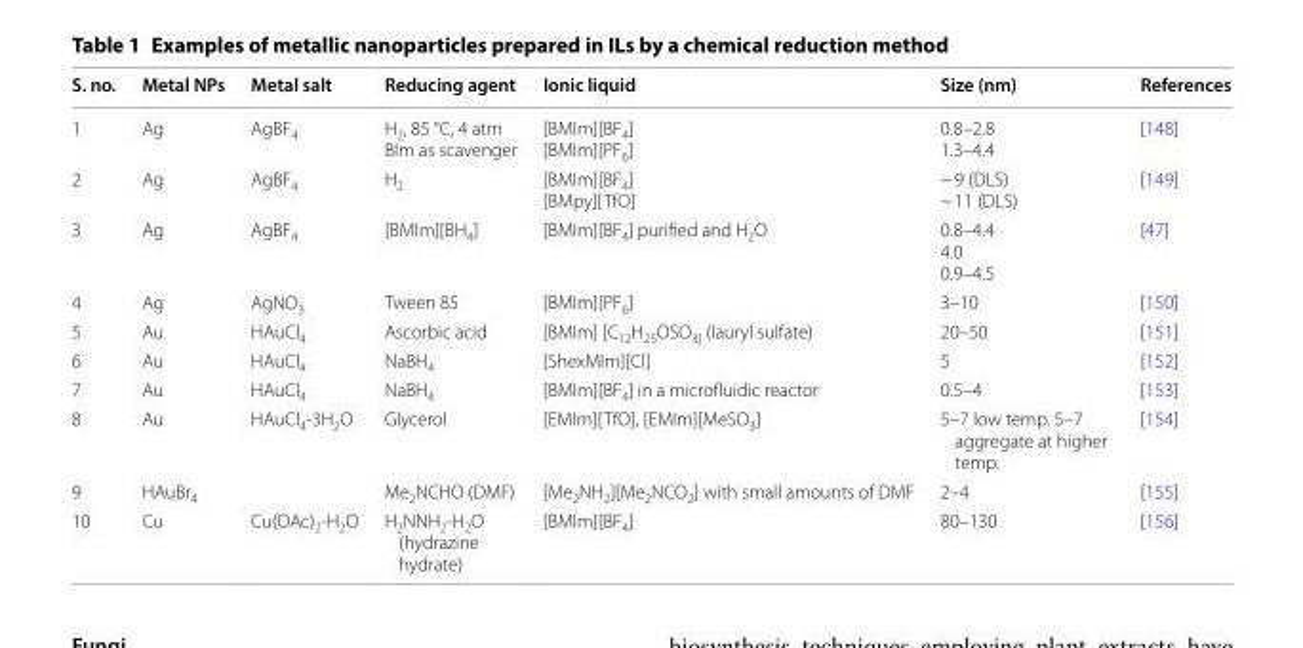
<table><thead><tr><td>S. no.</td><td>Metal NPs</td><td>Metal salt</td><td>Reducing agent</td><td>Ionic liquid</td><td>Size (nm)</td><td>References</td></tr></thead><tbody><tr><td>1</td><td>Ag</td><td>AgBF<sub>4</sub></td><td>H<sub>2</sub>, 85 °C, 4 atm BIm as scavenger</td><td>[BMIm][BF<sub>4</sub>] [BMIm][PF<sub>6</sub>]</td><td>0.8–2.8 1.3–4.4</td><td>[148]</td></tr><tr><td>2</td><td>Ag</td><td>AgBF<sub>4</sub></td><td>H<sub>2</sub></td><td>[BMIm][BF<sub>4</sub>] [BMpy][TfO]</td><td>~ 9 (DLS) ~ 11 (DLS)</td><td>[149]</td></tr><tr><td>3</td><td>Ag</td><td>AgBF<sub>4</sub></td><td>[BMIm][BH<sub>4</sub>]</td><td>[BMIm][BF<sub>4</sub>] purified and H<sub>2</sub>O</td><td>0.8–4.4 4.0 0.9–4.5</td><td>[47]</td></tr><tr><td>4</td><td>Ag</td><td>AgNO<sub>3</sub></td><td>Tween 85</td><td>[BMIm][PF<sub>6</sub>]</td><td>3–10</td><td>[150]</td></tr><tr><td>5</td><td>Au</td><td>HAuCl<sub>4</sub></td><td>Ascorbic acid</td><td>[BMIm] [C<sub>12</sub>H<sub>25</sub>OSO<sub>3]</sub> (lauryl sulfate)</td><td>20–50</td><td>[151]</td></tr><tr><td>6</td><td>Au</td><td>HAuCl<sub>4</sub></td><td>NaBH<sub>4</sub></td><td>[ShexMIm][Cl]</td><td>5</td><td>[152]</td></tr><tr><td>7</td><td>Au</td><td>HAuCl<sub>4</sub></td><td>NaBH<sub>4</sub></td><td>[BMIm][BF<sub>4</sub>] in a microfluidic reactor</td><td>0.5–4</td><td>[153]</td></tr><tr><td>8</td><td>Au</td><td>HAuCl<sub>4</sub>‑3H<sub>2</sub>O</td><td>Glycerol</td><td>[EMIm][TfO], [EMIm][MeSO<sub>3</sub>]</td><td>5–7 low temp. 5–7 aggregate at higher temp.</td><td>[154]</td></tr><tr><td>9</td><td>HAuBr<sub>4</sub></td><td></td><td>Me<sub>2</sub>NCHO (DMF)</td><td>[Me<sub>2</sub>NH<sub>2</sub>][Me<sub>2</sub>NCO<sub>2</sub>] with small amounts of DMF</td><td>2–4</td><td>[155]</td></tr><tr><td>10</td><td>Cu</td><td>Cu(OAc)<sub>2</sub>‑H<sub>2</sub>O</td><td>H<sub>2</sub>NNH<sub>2</sub>‑H<sub>2</sub>O (hydrazine hydrate)</td><td>[BMIm][BF<sub>4</sub>]</td><td>80–130</td><td>[156]</td></tr></tbody></table>